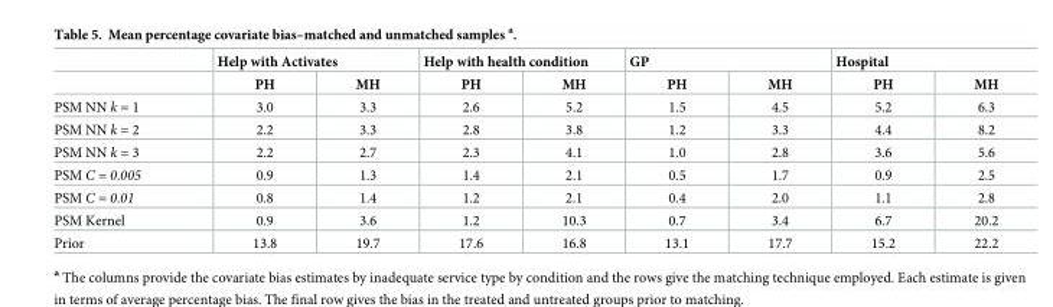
<table><thead><tr><td rowspan="2"></td><td colspan="2">Help with Activates</td><td colspan="2">Help with health condition</td><td colspan="2">GP</td><td colspan="2">Hospital</td></tr><tr><td>PH</td><td>MH</td><td>PH</td><td>MH</td><td>PH</td><td>MH</td><td>PH</td><td>MH</td></tr></thead><tbody><tr><td>PSM NN k = 1</td><td>3.0</td><td>3.3</td><td>2.6</td><td>5.2</td><td>1.5</td><td>4.5</td><td>5.2</td><td>6.3</td></tr><tr><td>PSM NN k = 2</td><td>2.2</td><td>3.3</td><td>2.8</td><td>3.8</td><td>1.2</td><td>3.3</td><td>4.4</td><td>8.2</td></tr><tr><td>PSM NN k = 3</td><td>2.2</td><td>2.7</td><td>2.3</td><td>4.1</td><td>1.0</td><td>2.8</td><td>3.6</td><td>5.6</td></tr><tr><td>PSM C = 0.005</td><td>0.9</td><td>1.3</td><td>1.4</td><td>2.1</td><td>0.5</td><td>1.7</td><td>0.9</td><td>2.5</td></tr><tr><td>PSM C = 0.01</td><td>0.8</td><td>1.4</td><td>1.2</td><td>2.1</td><td>0.4</td><td>2.0</td><td>1.1</td><td>2.8</td></tr><tr><td>PSM Kernel</td><td>0.9</td><td>3.6</td><td>1.2</td><td>10.3</td><td>0.7</td><td>3.4</td><td>6.7</td><td>20.2</td></tr><tr><td>Prior</td><td>13.8</td><td>19.7</td><td>17.6</td><td>16.8</td><td>13.1</td><td>17.7</td><td>15.2</td><td>22.2</td></tr></tbody></table>